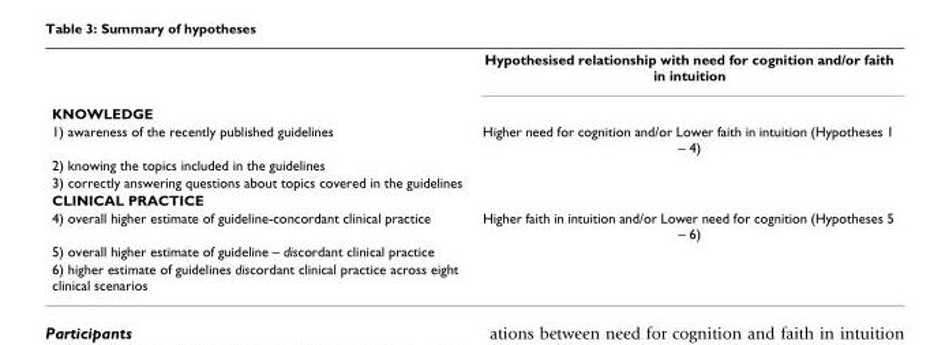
<table><thead><tr><td></td><td>Hypothesised relationship with need for cognition and/or faith in intuition</td></tr></thead><tbody><tr><td colspan="2">KNOWLEDGE</td></tr><tr><td>1) awareness of the recently published guidelines</td><td>Higher need for cognition and/or Lower faith in intuition (Hypotheses 1 – 4)</td></tr><tr><td colspan="2">2) knowing the topics included in the guidelines</td></tr><tr><td colspan="2">3) correctly answering questions about topics covered in the guidelines</td></tr><tr><td colspan="2">CLINICAL PRACTICE</td></tr><tr><td>4) overall higher estimate of guideline-concordant clinical practice</td><td>Higher faith in intuition and/or Lower need for cognition (Hypotheses 5 – 6)</td></tr><tr><td colspan="2">5) overall higher estimate of guideline – discordant clinical practice</td></tr><tr><td>6) higher estimate of guidelines discordant clinical practice across eight clinical scenarios</td><td></td></tr></tbody></table>